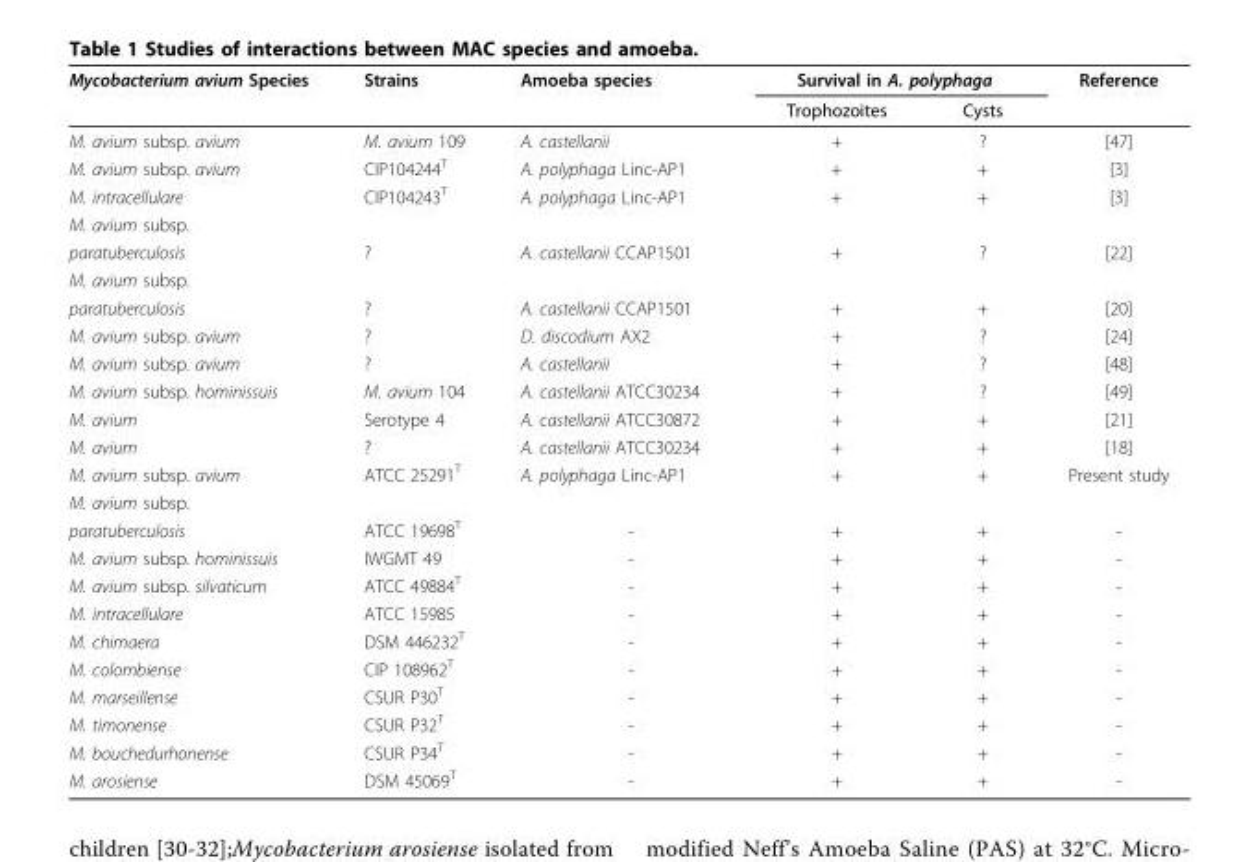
<table><thead><tr><td rowspan="2">Mycobacterium avium Species</td><td rowspan="2">Strains</td><td rowspan="2">Amoeba species</td><td colspan="2">Survival in A. polyphaga</td><td rowspan="2">Reference</td></tr><tr><td>Trophozoites</td><td>Cysts</td></tr></thead><tbody><tr><td>M. avium subsp. avium</td><td>M. avium 109</td><td>A. castellanii</td><td>+</td><td>?</td><td>[47]</td></tr><tr><td>M. avium subsp. avium</td><td>CIP104244<sup>T</sup></td><td>A. polyphaga Linc-AP1</td><td>+</td><td>+</td><td>[3]</td></tr><tr><td>M. intracellulare</td><td>CIP104243<sup>T</sup></td><td>A. polyphaga Linc-AP1</td><td>+</td><td>+</td><td>[3]</td></tr><tr><td colspan="6">M. avium subsp.</td></tr><tr><td>paratuberculosis</td><td>?</td><td>A. castellanii CCAP1501</td><td>+</td><td>?</td><td>[22]</td></tr><tr><td colspan="6">M. avium subsp.</td></tr><tr><td>paratuberculosis</td><td>?</td><td>A. castellanii CCAP1501</td><td>+</td><td>+</td><td>[20]</td></tr><tr><td>M. avium subsp. avium</td><td>?</td><td>D. discodium AX2</td><td>+</td><td>?</td><td>[24]</td></tr><tr><td>M. avium subsp. avium</td><td>?</td><td>A. castellanii</td><td>+</td><td>?</td><td>[48]</td></tr><tr><td>M. avium subsp. hominissuis</td><td>M. avium 104</td><td>A. castellanii ATCC30234</td><td>+</td><td>?</td><td>[49]</td></tr><tr><td>M. avium</td><td>Serotype 4</td><td>A. castellanii ATCC30872</td><td>+</td><td>+</td><td>[21]</td></tr><tr><td>M. avium</td><td>?</td><td>A. castellanii ATCC30234</td><td>+</td><td>+</td><td>[18]</td></tr><tr><td>M. avium subsp. avium</td><td>ATCC 25291<sup>T</sup></td><td>A. polyphaga Linc-AP1</td><td>+</td><td>+</td><td>Present study</td></tr><tr><td colspan="6">M. avium subsp.</td></tr><tr><td>paratuberculosis</td><td>ATCC 19698<sup>T</sup></td><td>-</td><td>+</td><td>+</td><td>-</td></tr><tr><td>M. avium subsp. hominissuis</td><td>IWGMT 49</td><td>-</td><td>+</td><td>+</td><td>-</td></tr><tr><td>M. avium subsp. silvaticum</td><td>ATCC 49884<sup>T</sup></td><td>-</td><td>+</td><td>+</td><td>-</td></tr><tr><td>M. intracellulare</td><td>ATCC 15985</td><td>-</td><td>+</td><td>+</td><td>-</td></tr><tr><td>M. chimaera</td><td>DSM 446232<sup>T</sup></td><td>-</td><td>+</td><td>+</td><td>-</td></tr><tr><td>M. colombiense</td><td>CIP 108962<sup>T</sup></td><td>-</td><td>+</td><td>+</td><td>-</td></tr><tr><td>M. marseillense</td><td>CSUR P30<sup>T</sup></td><td>-</td><td>+</td><td>+</td><td>-</td></tr><tr><td>M. timonense</td><td>CSUR P32<sup>T</sup></td><td>-</td><td>+</td><td>+</td><td>-</td></tr><tr><td>M. bouchedurhonense</td><td>CSUR P34<sup>T</sup></td><td>-</td><td>+</td><td>+</td><td>-</td></tr><tr><td>M. arosiense</td><td>DSM 45069<sup>T</sup></td><td>-</td><td>+</td><td>+</td><td>-</td></tr></tbody></table>